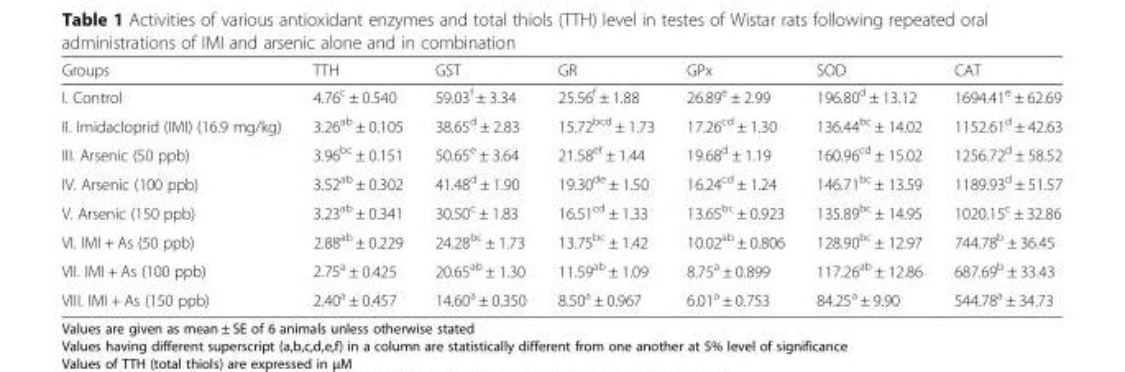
<table><thead><tr><td>Groups</td><td>TTH</td><td>GST</td><td>GR</td><td>GPx</td><td>SOD</td><td>CAT</td></tr></thead><tbody><tr><td>I. Control</td><td>4.76<sup>c</sup> ± 0.540</td><td>59.03<sup>f</sup> ± 3.34</td><td>25.56<sup>f</sup> ± 1.88</td><td>26.89<sup>e</sup> ± 2.99</td><td>196.80<sup>d</sup> ± 13.12</td><td>1694.41<sup>e</sup> ± 62.69</td></tr><tr><td>II. Imidacloprid (IMI) (16.9 mg/kg)</td><td>3.26<sup>ab</sup> ± 0.105</td><td>38.65<sup>d</sup> ± 2.83</td><td>15.72<sup>bcd</sup> ± 1.73</td><td>17.26<sup>cd</sup> ± 1.30</td><td>136.44<sup>bc</sup> ± 14.02</td><td>1152.61<sup>d</sup> ± 42.63</td></tr><tr><td>III. Arsenic (50 ppb)</td><td>3.96<sup>bc</sup> ± 0.151</td><td>50.65<sup>e</sup> ± 3.64</td><td>21.58<sup>ef</sup> ± 1.44</td><td>19.68<sup>d</sup> ± 1.19</td><td>160.96<sup>cd</sup> ± 15.02</td><td>1256.72<sup>d</sup> ± 58.52</td></tr><tr><td>IV. Arsenic (100 ppb)</td><td>3.52<sup>ab</sup> ± 0.302</td><td>41.48<sup>d</sup> ± 1.90</td><td>19.30<sup>de</sup> ± 1.50</td><td>16.24<sup>cd</sup> ± 1.24</td><td>146.71<sup>bc</sup> ± 13.59</td><td>1189.93<sup>d</sup> ± 51.57</td></tr><tr><td>V. Arsenic (150 ppb)</td><td>3.23<sup>ab</sup> ± 0.341</td><td>30.50<sup>c</sup> ± 1.83</td><td>16.51<sup>cd</sup> ± 1.33</td><td>13.65<sup>bc</sup> ± 0.923</td><td>135.89<sup>bc</sup> ± 14.95</td><td>1020.15<sup>c</sup> ± 32.86</td></tr><tr><td>VI. IMI + As (50 ppb)</td><td>2.88<sup>ab</sup> ± 0.229</td><td>24.28<sup>bc</sup> ± 1.73</td><td>13.75<sup>bc</sup> ± 1.42</td><td>10.02<sup>ab</sup> ± 0.806</td><td>128.90<sup>bc</sup> ± 12.97</td><td>744.78<sup>b</sup> ± 36.45</td></tr><tr><td>VII. IMI + As (100 ppb)</td><td>2.75<sup>a</sup> ± 0.425</td><td>20.65<sup>ab</sup> ± 1.30</td><td>11.59<sup>ab</sup> ± 1.09</td><td>8.75<sup>a</sup> ± 0.899</td><td>117.26<sup>ab</sup> ± 12.86</td><td>687.69<sup>b</sup> ± 33.43</td></tr><tr><td>VIII. IMI + As (150 ppb)</td><td>2.40<sup>a</sup> ± 0.457</td><td>14.60<sup>a</sup> ± 0.350</td><td>8.50<sup>a</sup> ± 0.967</td><td>6.01<sup>a</sup> ± 0.753</td><td>84.25<sup>a</sup> ± 9.90</td><td>544.78<sup>a</sup> ± 34.73</td></tr></tbody></table>